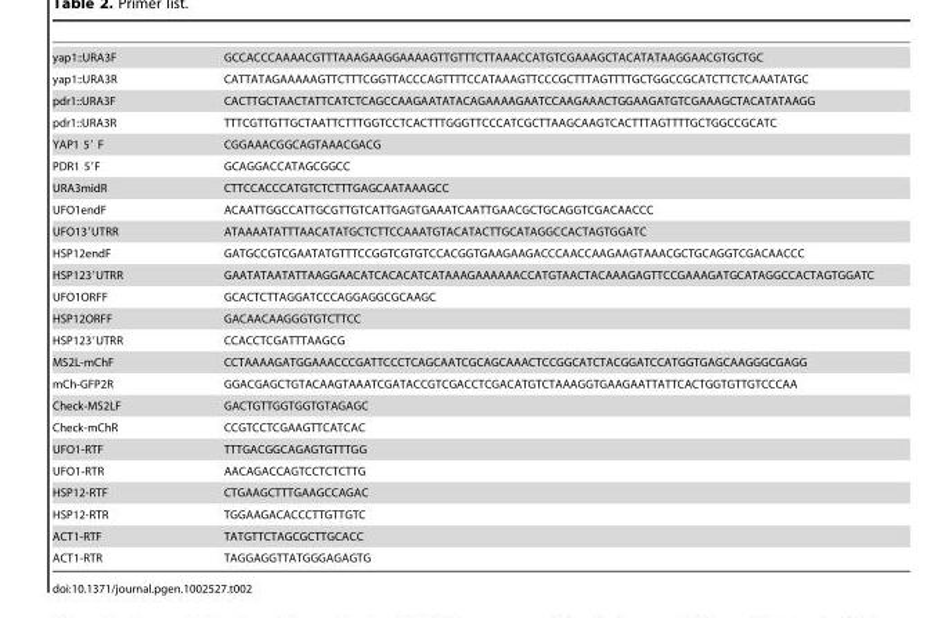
<table><tbody><tr><td>yap1::URA3F</td><td>GCCACCCAAAACGTTTAAAGAAGGAAAAGTTGTTTCTTAAACCATGTCGAAAGCTACATATAAGGAACGTGCTGC</td></tr><tr><td>yap1::URA3R</td><td>CATTATAGAAAAAGTTCTTTCGGTTACCCAGTTTTCCATAAAGTTCCCGCTTTAGTTTTGCTGGCCGCATCTTCTCAAATATGC</td></tr><tr><td>pdr1::URA3F</td><td>CACTTGCTAACTATTCATCTCAGCCAAGAATATACAGAAAAGAATCCAAGAAACTGGAAGATGTCGAAAGCTACATATAAGG</td></tr><tr><td>pdr1::URA3R</td><td>TTTCGTTGTTGCTAATTCTTTGGTCCTCACTTTGGGTTCCCATCGCTTAAGCAAGTCACTTTAGTTTTGCTGGCCGCATC</td></tr><tr><td>YAP1 5′ F</td><td>CGGAAACGGCAGTAAACGACG</td></tr><tr><td>PDR1 5′F</td><td>GCAGGACCATAGCGGCC</td></tr><tr><td>URA3midR</td><td>CTTCCACCCATGTCTCTTTGAGCAATAAAGCC</td></tr><tr><td>UFO1endF</td><td>ACAATTGGCCATTGCGTTGTCATTGAGTGAAATCAATTGAACGCTGCAGGTCGACAACCC</td></tr><tr><td>UFO13′UTRR</td><td>ATAAAATATTTAACATATGCTCTTCCAAATGTACATACTTGCATAGGCCACTAGTGGATC</td></tr><tr><td>HSP12endF</td><td>GATGCCGTCGAATATGTTTCCGGTCGTGTCCACGGTGAAGAAGACCCAACCAAGAAGTAAACGCTGCAGGTCGACAACCC</td></tr><tr><td>HSP123′UTRR</td><td>GAATATAATATTAAGGAACATCACACATCATAAAGAAAAAACCATGTAACTACAAAGAGTTCCGAAAGATGCATAGGCCACTAGTGGATC</td></tr><tr><td>UFO1ORFF</td><td>GCACTCTTAGGATCCCAGGAGGCGCAAGC</td></tr><tr><td>HSP12ORFF</td><td>GACAACAAGGGTGTCTTCC</td></tr><tr><td>HSP123′UTRR</td><td>CCACCTCGATTTAAGCG</td></tr><tr><td>MS2L-mChF</td><td>CCTAAAAGATGGAAACCCGATTCCCTCAGCAATCGCAGCAAACTCCGGCATCTACGGATCCATGGTGAGCAAGGGCGAGG</td></tr><tr><td>mCh-GFP2R</td><td>GGACGAGCTGTACAAGTAAATCGATACCGTCGACCTCGACATGTCTAAAGGTGAAGAATTATTCACTGGTGTTGTCCCAA</td></tr><tr><td>Check-MS2LF</td><td>GACTGTTGGTGGTGTAGAGC</td></tr><tr><td>Check-mChR</td><td>CCGTCCTCGAAGTTCATCAC</td></tr><tr><td>UFO1-RTF</td><td>TTTGACGGCAGAGTGTTTGG</td></tr><tr><td>UFO1-RTR</td><td>AACAGACCAGTCCTCTCTTG</td></tr><tr><td>HSP12-RTF</td><td>CTGAAGCTTTGAAGCCAGAC</td></tr><tr><td>HSP12-RTR</td><td>TGGAAGACACCCTTGTTGTC</td></tr><tr><td>ACT1-RTF</td><td>TATGTTCTAGCGCTTGCACC</td></tr><tr><td>ACT1-RTR</td><td>TAGGAGGTTATGGGAGAGTG</td></tr></tbody></table>